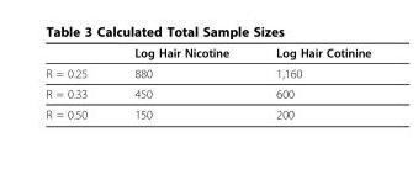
<table><thead><tr><td></td><td>Log Hair Nicotine</td><td>Log Hair Cotinine</td></tr></thead><tbody><tr><td>R = 0.25</td><td>880</td><td>1,160</td></tr><tr><td>R = 0.33</td><td>450</td><td>600</td></tr><tr><td>R = 0.50</td><td>150</td><td>200</td></tr></tbody></table>